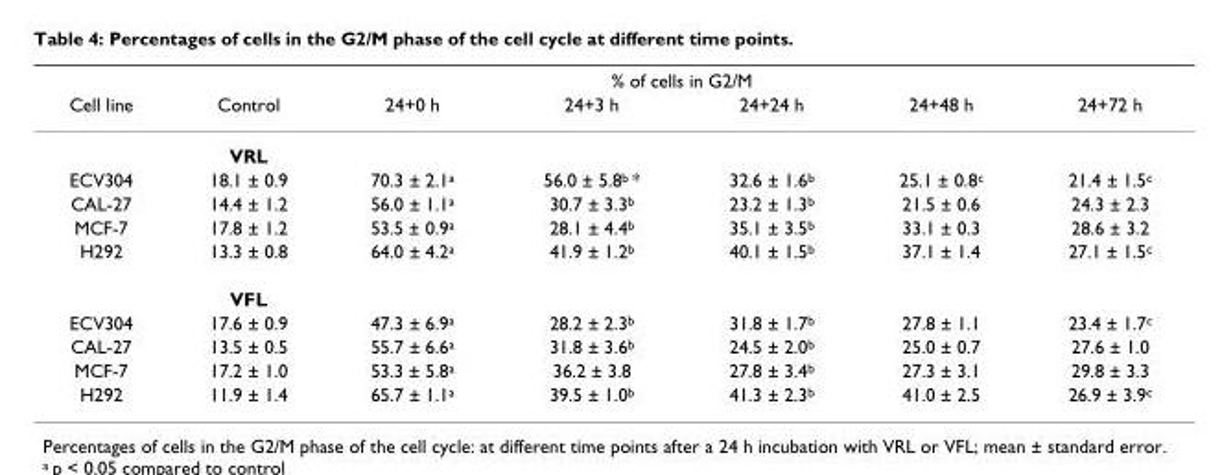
<table><thead><tr><td rowspan="2">Cell line</td><td colspan="6">% of cells in G2/M</td></tr><tr><td>Control</td><td>24+0 h</td><td>24+3 h</td><td>24+24 h</td><td>24+48 h</td><td>24+72 h</td></tr></thead><tbody><tr><td></td><td>VRL</td><td></td><td></td><td></td><td></td><td></td></tr><tr><td>ECV304</td><td>18.1 ± 0.9</td><td>70.3 ± 2.1<sup>a</sup></td><td>56.0 ± 5.8<sup>b</sup> *</td><td>32.6 ± 1.6<sup>b</sup></td><td>25.1 ± 0.8<sup>c</sup></td><td>21.4 ± 1.5<sup>c</sup></td></tr><tr><td>CAL-27</td><td>14.4 ± 1.2</td><td>56.0 ± 1.1<sup>a</sup></td><td>30.7 ± 3.3<sup>b</sup></td><td>23.2 ± 1.3<sup>b</sup></td><td>21.5 ± 0.6</td><td>24.3 ± 2.3</td></tr><tr><td>MCF-7</td><td>17.8 ± 1.2</td><td>53.5 ± 0.9<sup>a</sup></td><td>28.1 ± 4.4<sup>b</sup></td><td>35.1 ± 3.5<sup>b</sup></td><td>33.1 ± 0.3</td><td>28.6 ± 3.2</td></tr><tr><td rowspan="2">H292</td><td>13.3 ± 0.8</td><td>64.0 ± 4.2<sup>a</sup></td><td>41.9 ± 1.2<sup>b</sup></td><td>40.1 ± 1.5<sup>b</sup></td><td>37.1 ± 1.4</td><td>27.1 ± 1.5<sup>c</sup></td></tr><tr><td>VFL</td><td></td><td></td><td></td><td></td><td></td></tr><tr><td>ECV304</td><td>17.6 ± 0.9</td><td>47.3 ± 6.9<sup>a</sup></td><td>28.2 ± 2.3<sup>b</sup></td><td>31.8 ± 1.7<sup>b</sup></td><td>27.8 ± 1.1</td><td>23.4 ± 1.7<sup>c</sup></td></tr><tr><td>CAL-27</td><td>13.5 ± 0.5</td><td>55.7 ± 6.6<sup>a</sup></td><td>31.8 ± 3.6<sup>b</sup></td><td>24.5 ± 2.0<sup>b</sup></td><td>25.0 ± 0.7</td><td>27.6 ± 1.0</td></tr><tr><td>MCF-7</td><td>17.2 ± 1.0</td><td>53.3 ± 5.8<sup>a</sup></td><td>36.2 ± 3.8</td><td>27.8 ± 3.4<sup>b</sup></td><td>27.3 ± 3.1</td><td>29.8 ± 3.3</td></tr><tr><td>H292</td><td>11.9 ± 1.4</td><td>65.7 ± 1.1<sup>a</sup></td><td>39.5 ± 1.0<sup>b</sup></td><td>41.3 ± 2.3<sup>b</sup></td><td>41.0 ± 2.5</td><td>26.9 ± 3.9<sup>c</sup></td></tr></tbody></table>